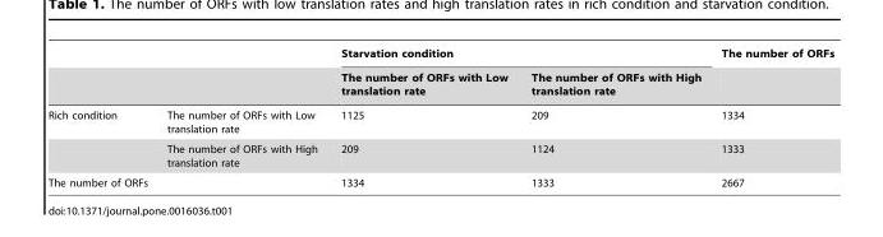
<table><thead><tr><td rowspan="2"></td><td rowspan="2"></td><td colspan="2">Starvation condition</td><td rowspan="2">The number of ORFs</td></tr><tr><td>The number of ORFs with Low translation rate</td><td>The number of ORFs with High translation rate</td></tr></thead><tbody><tr><td rowspan="2">Rich condition</td><td>The number of ORFs with Low translation rate</td><td>1125</td><td>209</td><td>1334</td></tr><tr><td>The number of ORFs with High translation rate</td><td>209</td><td>1124</td><td>1333</td></tr><tr><td colspan="2">The number of ORFs</td><td>1334</td><td>1333</td><td>2667</td></tr></tbody></table>